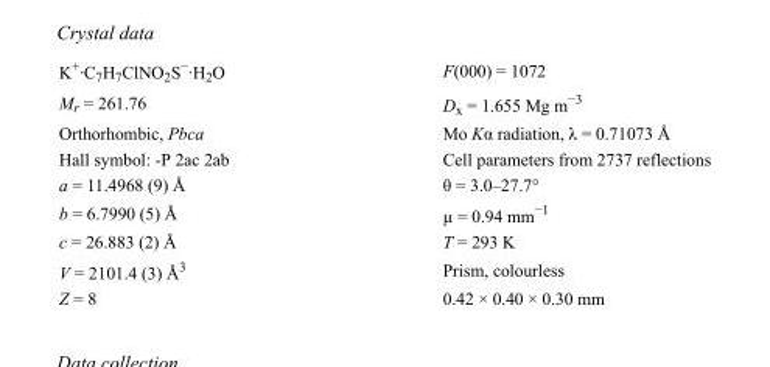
<table><tbody><tr><td>K<sup>+</sup>·C<sub>7</sub>H<sub>7</sub>ClNO<sub>2</sub>S<sup>−</sup>·H<sub>2</sub>O</td><td>F(000) = 1072</td></tr><tr><td>M<sub>r</sub> = 261.76</td><td>D<sub>x</sub> = 1.655 Mg m<sup>−3</sup></td></tr><tr><td>Orthorhombic, Pbca</td><td>Mo Kα radiation, λ = 0.71073 Å</td></tr><tr><td>Hall symbol: -P 2ac 2ab</td><td>Cell parameters from 2737 reflections</td></tr><tr><td>a = 11.4968 (9) Å</td><td>θ = 3.0–27.7°</td></tr><tr><td>b = 6.7990 (5) Å</td><td>µ = 0.94 mm<sup>−1</sup></td></tr><tr><td>c = 26.883 (2) Å</td><td>T = 293 K</td></tr><tr><td>V = 2101.4 (3) Å<sup>3</sup></td><td>Prism, colourless</td></tr><tr><td>Z = 8</td><td>0.42 × 0.40 × 0.30 mm</td></tr></tbody></table>